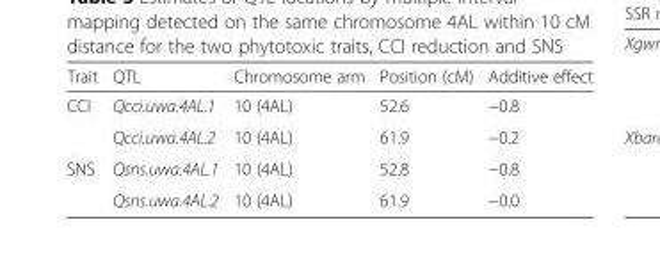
<table><thead><tr><td>Trait</td><td>QTL</td><td>Chromosome arm</td><td>Position (cM)</td><td>Additive effect</td></tr></thead><tbody><tr><td rowspan="2">CCI</td><td>Qcci.uwa.4AL.1</td><td>10 (4AL)</td><td>52.6</td><td>−0.8</td></tr><tr><td>Qcci.uwa.4AL.2</td><td>10 (4AL)</td><td>61.9</td><td>−0.2</td></tr><tr><td rowspan="2">SNS</td><td>Qsns.uwa.4AL.1</td><td>10 (4AL)</td><td>52.8</td><td>−0.8</td></tr><tr><td>Qsns.uwa.4AL.2</td><td>10 (4AL)</td><td>61.9</td><td>−0.0</td></tr></tbody></table>